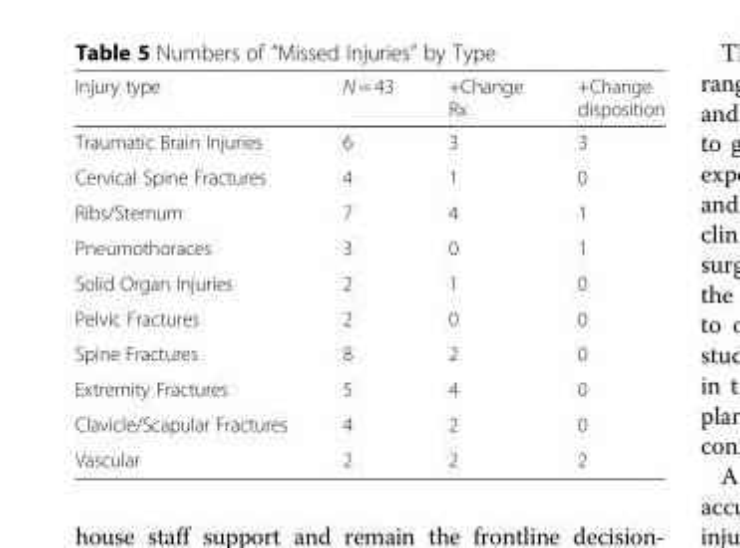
<table><thead><tr><td>Injury type</td><td>N = 43</td><td>+Change Rx</td><td>+Change disposition</td></tr></thead><tbody><tr><td>Traumatic Brain Injuries</td><td>6</td><td>3</td><td>3</td></tr><tr><td>Cervical Spine Fractures</td><td>4</td><td>1</td><td>0</td></tr><tr><td>Ribs/Sternum</td><td>7</td><td>4</td><td>1</td></tr><tr><td>Pneumothoraces</td><td>3</td><td>0</td><td>1</td></tr><tr><td>Solid Organ Injuries</td><td>2</td><td>1</td><td>0</td></tr><tr><td>Pelvic Fractures</td><td>2</td><td>0</td><td>0</td></tr><tr><td>Spine Fractures</td><td>8</td><td>2</td><td>0</td></tr><tr><td>Extremity Fractures</td><td>5</td><td>4</td><td>0</td></tr><tr><td>Clavicle/Scapular Fractures</td><td>4</td><td>2</td><td>0</td></tr><tr><td>Vascular</td><td>2</td><td>2</td><td>2</td></tr></tbody></table>